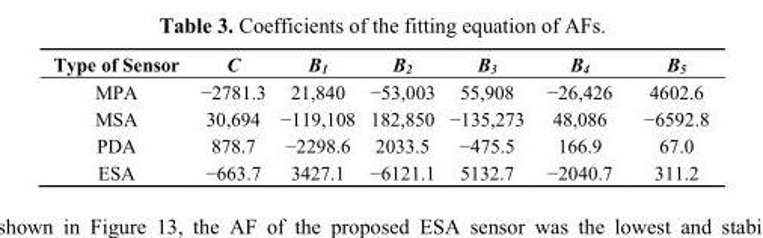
<table><thead><tr><td>Type of Sensor</td><td>C</td><td>B<sub>1</sub></td><td>B<sub>2</sub></td><td>B<sub>3</sub></td><td>B<sub>4</sub></td><td>B<sub>5</sub></td></tr></thead><tbody><tr><td>MPA</td><td>−2781.3</td><td>21,840</td><td>−53,003</td><td>55,908</td><td>−26,426</td><td>4602.6</td></tr><tr><td>MSA</td><td>30,694</td><td>−119,108</td><td>182,850</td><td>−135,273</td><td>48,086</td><td>−6592.8</td></tr><tr><td>PDA</td><td>878.7</td><td>−2298.6</td><td>2033.5</td><td>−475.5</td><td>166.9</td><td>67.0</td></tr><tr><td>ESA</td><td>−663.7</td><td>3427.1</td><td>−6121.1</td><td>5132.7</td><td>−2040.7</td><td>311.2</td></tr></tbody></table>